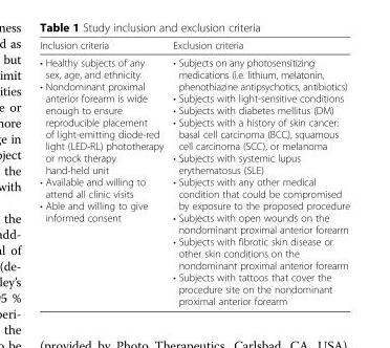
<table><thead><tr><td>Inclusion criteria</td><td>Exclusion criteria</td></tr></thead><tbody><tr><td>• Healthy subjects of any sex, age, and ethnicity • Nondominant proximal anterior forearm is wide enough to ensure reproducible placement of light-emitting diode-red light (LED-RL) phototherapy or mock therapy hand-held unit • Available and willing to attend all clinic visits • Able and willing to give informed consent</td><td>• Subjects on any photosensitizing medications (i.e. lithium, melatonin, phenothiazine antipsychotics, antibiotics) • Subjects with light-sensitive conditions • Subjects with diabetes mellitus (DM) • Subjects with a history of skin cancer: basal cell carcinoma (BCC), squamous cell carcinoma (SCC), or melanoma • Subjects with systemic lupus erythematosus (SLE) • Subjects with any other medical condition that could be compromised by exposure to the proposed procedure • Subjects with open wounds on the nondominant proximal anterior forearm • Subjects with fibrotic skin disease or other skin conditions on the nondominant proximal anterior forearm • Subjects with tattoos that cover the procedure site on the nondominant proximal anterior forearm</td></tr></tbody></table>